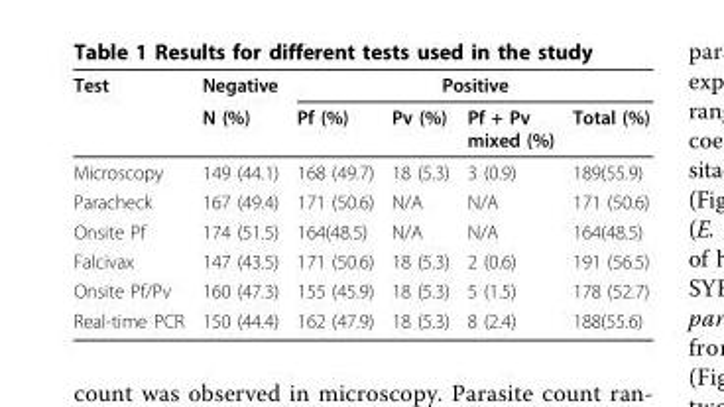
<table><thead><tr><td rowspan="2">Test</td><td rowspan="2">Negative N (%)</td><td colspan="4">Positive</td></tr><tr><td>Pf (%)</td><td>Pv (%)</td><td>Pf + Pv mixed (%)</td><td>Total (%)</td></tr></thead><tbody><tr><td>Microscopy</td><td>149 (44.1)</td><td>168 (49.7)</td><td>18 (5.3)</td><td>3 (0.9)</td><td>189(55.9)</td></tr><tr><td>Paracheck</td><td>167 (49.4)</td><td>171 (50.6)</td><td>N/A</td><td>N/A</td><td>171 (50.6)</td></tr><tr><td>Onsite Pf</td><td>174 (51.5)</td><td>164(48.5)</td><td>N/A</td><td>N/A</td><td>164(48.5)</td></tr><tr><td>Falcivax</td><td>147 (43.5)</td><td>171 (50.6)</td><td>18 (5.3)</td><td>2 (0.6)</td><td>191 (56.5)</td></tr><tr><td>Onsite Pf/Pv</td><td>160 (47.3)</td><td>155 (45.9)</td><td>18 (5.3)</td><td>5 (1.5)</td><td>178 (52.7)</td></tr><tr><td>Real-time PCR</td><td>150 (44.4)</td><td>162 (47.9)</td><td>18 (5.3)</td><td>8 (2.4)</td><td>188(55.6)</td></tr></tbody></table>